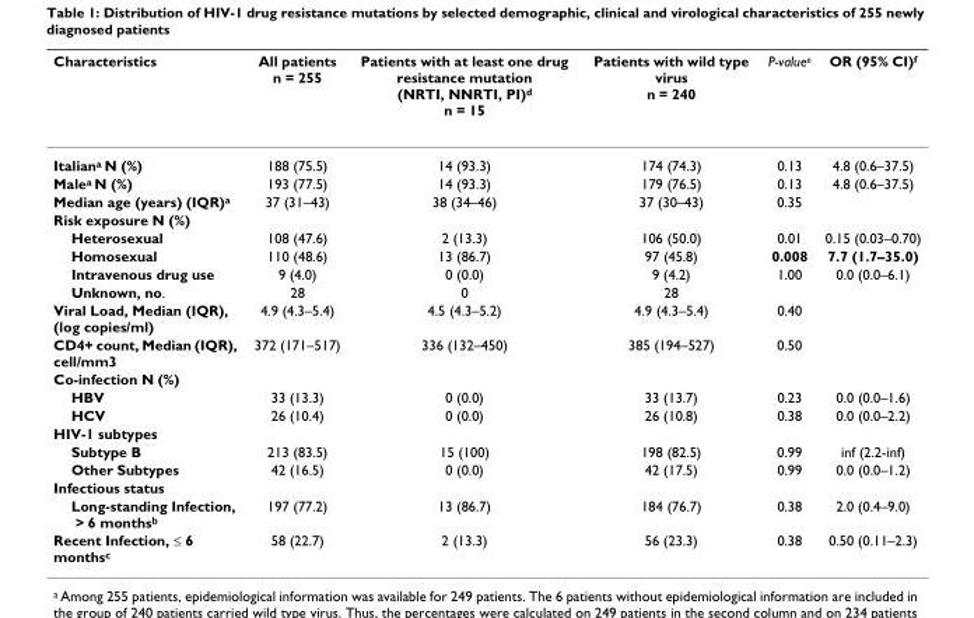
<table><thead><tr><td>Characteristics</td><td>All patients n = 255</td><td>Patients with at least one drug resistance mutation (NRTI, NNRTI, PI)<sup>d</sup> n = 15</td><td>Patients with wild type virus n = 240</td><td>P-value<sup>e</sup></td><td>OR (95% CI)<sup>f</sup></td></tr></thead><tbody><tr><td>Italian<sup>a</sup> N (%)</td><td>188 (75.5)</td><td>14 (93.3)</td><td>174 (74.3)</td><td>0.13</td><td>4.8 (0.6–37.5)</td></tr><tr><td>Male<sup>a</sup> N (%)</td><td>193 (77.5)</td><td>14 (93.3)</td><td>179 (76.5)</td><td>0.13</td><td>4.8 (0.6–37.5)</td></tr><tr><td>Median age (years) (IQR)<sup>a</sup></td><td>37 (31–43)</td><td>38 (34–46)</td><td>37 (30–43)</td><td>0.35</td><td></td></tr><tr><td colspan="6">Risk exposure N (%)</td></tr><tr><td>Heterosexual</td><td>108 (47.6)</td><td>2 (13.3)</td><td>106 (50.0)</td><td>0.01</td><td>0.15 (0.03–0.70)</td></tr><tr><td>Homosexual</td><td>110 (48.6)</td><td>13 (86.7)</td><td>97 (45.8)</td><td>0.008</td><td>7.7 (1.7–35.0)</td></tr><tr><td>Intravenous drug use</td><td>9 (4.0)</td><td>0 (0.0)</td><td>9 (4.2)</td><td>1.00</td><td>0.0 (0.0–6.1)</td></tr><tr><td>Unknown, no.</td><td>28</td><td>0</td><td>28</td><td></td><td></td></tr><tr><td>Viral Load, Median (IQR), (log copies/ml)</td><td>4.9 (4.3–5.4)</td><td>4.5 (4.3–5.2)</td><td>4.9 (4.3–5.4)</td><td>0.40</td><td></td></tr><tr><td>CD4+ count, Median (IQR), cell/mm3</td><td>372 (171–517)</td><td>336 (132–450)</td><td>385 (194–527)</td><td>0.50</td><td></td></tr><tr><td colspan="6">Co-infection N (%)</td></tr><tr><td>HBV</td><td>33 (13.3)</td><td>0 (0.0)</td><td>33 (13.7)</td><td>0.23</td><td>0.0 (0.0–1.6)</td></tr><tr><td>HCV</td><td>26 (10.4)</td><td>0 (0.0)</td><td>26 (10.8)</td><td>0.38</td><td>0.0 (0.0–2.2)</td></tr><tr><td colspan="6">HIV-1 subtypes</td></tr><tr><td>Subtype B</td><td>213 (83.5)</td><td>15 (100)</td><td>198 (82.5)</td><td>0.99</td><td>inf (2.2-inf)</td></tr><tr><td>Other Subtypes</td><td>42 (16.5)</td><td>0 (0.0)</td><td>42 (17.5)</td><td>0.99</td><td>0.0 (0.0–1.2)</td></tr><tr><td colspan="6">Infectious status</td></tr><tr><td>Long-standing Infection, &gt; 6 months<sup>b</sup></td><td>197 (77.2)</td><td>13 (86.7)</td><td>184 (76.7)</td><td>0.38</td><td>2.0 (0.4–9.0)</td></tr><tr><td>Recent Infection, ≤ 6 months<sup>c</sup></td><td>58 (22.7)</td><td>2 (13.3)</td><td>56 (23.3)</td><td>0.38</td><td>0.50 (0.11–2.3)</td></tr></tbody></table>